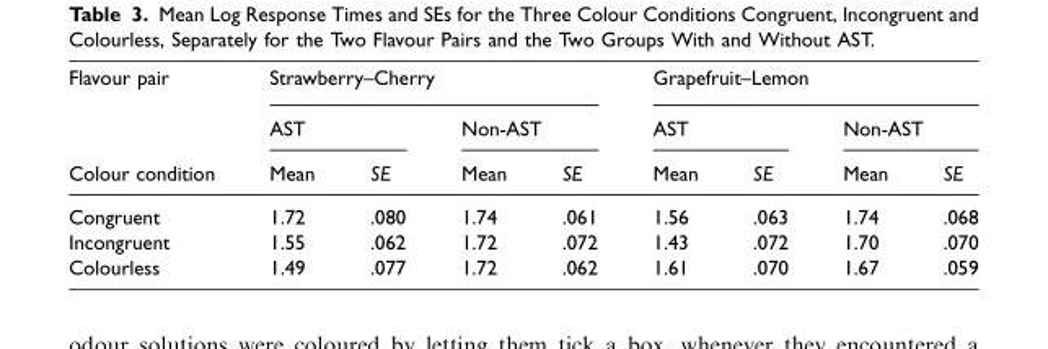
<table><thead><tr><td rowspan="3">Flavour pair Colour condition</td><td colspan="4">Strawberry–Cherry</td><td colspan="4">Grapefruit–Lemon</td></tr><tr><td colspan="2">AST</td><td colspan="2">Non-AST</td><td colspan="2">AST</td><td colspan="2">Non-AST</td></tr><tr><td>Mean</td><td>SE</td><td>Mean</td><td>SE</td><td>Mean</td><td>SE</td><td>Mean</td><td>SE</td></tr></thead><tbody><tr><td>Congruent</td><td>1.72</td><td>.080</td><td>1.74</td><td>.061</td><td>1.56</td><td>.063</td><td>1.74</td><td>.068</td></tr><tr><td>Incongruent</td><td>1.55</td><td>.062</td><td>1.72</td><td>.072</td><td>1.43</td><td>.072</td><td>1.70</td><td>.070</td></tr><tr><td>Colourless</td><td>1.49</td><td>.077</td><td>1.72</td><td>.062</td><td>1.61</td><td>.070</td><td>1.67</td><td>.059</td></tr></tbody></table>